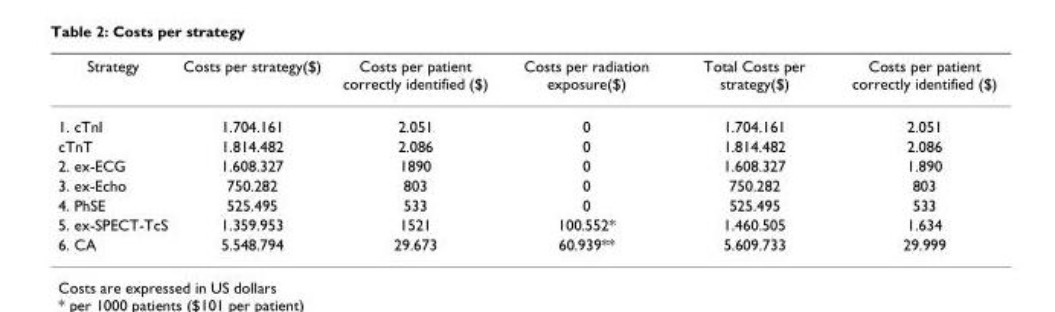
<table><thead><tr><td>Strategy</td><td>Costs per strategy($)</td><td>Costs per patient correctly identified ($)</td><td>Costs per radiation exposure($)</td><td>Total Costs per strategy($)</td><td>Costs per patient correctly identified ($)</td></tr></thead><tbody><tr><td>1. cTnI</td><td>1.704.161</td><td>2.051</td><td>0</td><td>1.704.161</td><td>2.051</td></tr><tr><td>cTnT</td><td>1.814.482</td><td>2.086</td><td>0</td><td>1.814.482</td><td>2.086</td></tr><tr><td>2. ex-ECG</td><td>1.608.327</td><td>1890</td><td>0</td><td>1.608.327</td><td>1.890</td></tr><tr><td>3. ex-Echo</td><td>750.282</td><td>803</td><td>0</td><td>750.282</td><td>803</td></tr><tr><td>4. PhSE</td><td>525.495</td><td>533</td><td>0</td><td>525.495</td><td>533</td></tr><tr><td>5. ex-SPECT-TcS</td><td>1.359.953</td><td>1521</td><td>100.552*</td><td>1.460.505</td><td>1.634</td></tr><tr><td>6. CA</td><td>5.548.794</td><td>29.673</td><td>60.939**</td><td>5.609.733</td><td>29.999</td></tr></tbody></table>